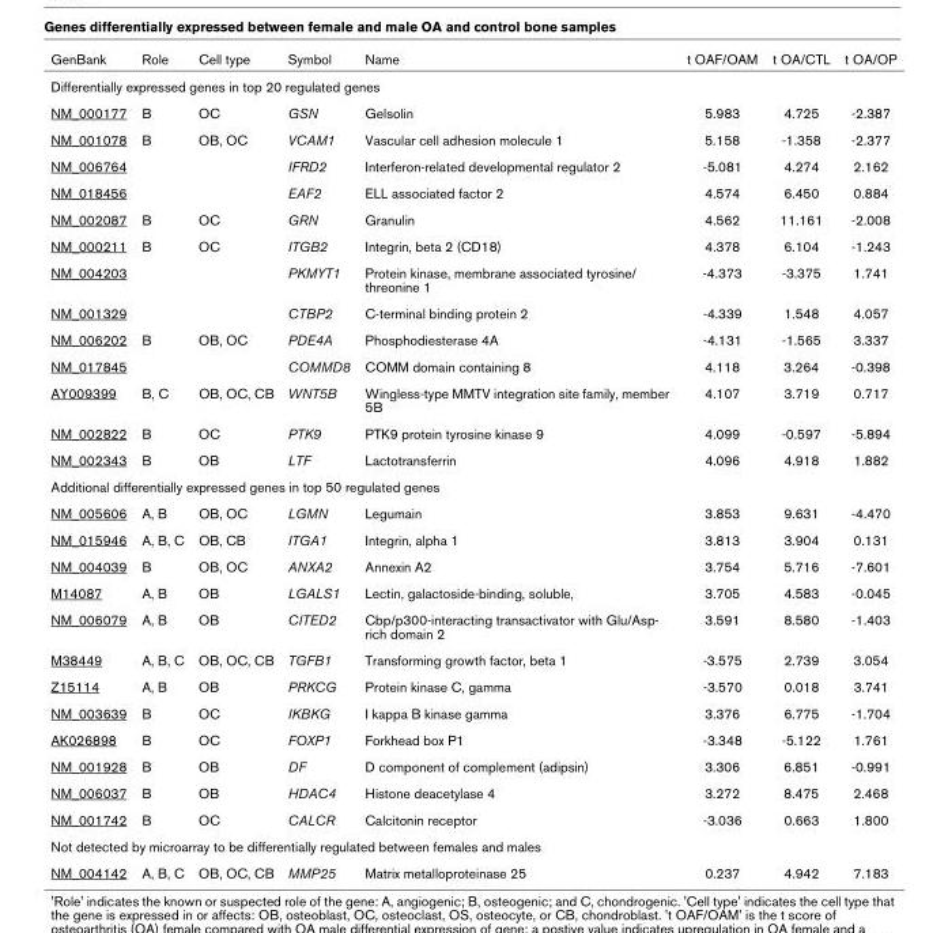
<table><thead><tr><td>GenBank</td><td>Role</td><td>Cell type</td><td>Symbol</td><td>Name</td><td>t OAF/OAM</td><td>t OA/CTL</td><td>t OA/OP</td></tr></thead><tbody><tr><td colspan="8">Differentially expressed genes in top 20 regulated genes</td></tr><tr><td>NM_000177</td><td>B</td><td>OC</td><td>GSN</td><td>Gelsolin</td><td>5.983</td><td>4.725</td><td>-2.387</td></tr><tr><td>NM_001078</td><td>B</td><td>OB, OC</td><td>VCAM1</td><td>Vascular cell adhesion molecule 1</td><td>5.158</td><td>-1.358</td><td>-2.377</td></tr><tr><td>NM_006764</td><td></td><td></td><td>IFRD2</td><td>Interferon-related developmental regulator 2</td><td>-5.081</td><td>4.274</td><td>2.162</td></tr><tr><td>NM_018456</td><td></td><td></td><td>EAF2</td><td>ELL associated factor 2</td><td>4.574</td><td>6.450</td><td>0.884</td></tr><tr><td>NM_002087</td><td>B</td><td>OC</td><td>GRN</td><td>Granulin</td><td>4.562</td><td>11.161</td><td>-2.008</td></tr><tr><td>NM_000211</td><td>B</td><td>OC</td><td>ITGB2</td><td>Integrin, beta 2 (CD18)</td><td>4.378</td><td>6.104</td><td>-1.243</td></tr><tr><td>NM_004203</td><td></td><td></td><td>PKMYT1</td><td>Protein kinase, membrane associated tyrosine/ threonine 1</td><td>-4.373</td><td>-3.375</td><td>1.741</td></tr><tr><td>NM_001329</td><td></td><td></td><td>CTBP2</td><td>C-terminal binding protein 2</td><td>-4.339</td><td>1.548</td><td>4.057</td></tr><tr><td>NM_006202</td><td>B</td><td>OB, OC</td><td>PDE4A</td><td>Phosphodiesterase 4A</td><td>-4.131</td><td>-1.565</td><td>3.337</td></tr><tr><td>NM_017845</td><td></td><td></td><td>COMMD8</td><td>COMM domain containing 8</td><td>4.118</td><td>3.264</td><td>-0.398</td></tr><tr><td>AY009399</td><td>B, C</td><td>OB, OC, CB</td><td>WNT5B</td><td>Wingless-type MMTV integration site family, member 5B</td><td>4.107</td><td>3.719</td><td>0.717</td></tr><tr><td>NM_002822</td><td>B</td><td>OC</td><td>PTK9</td><td>PTK9 protein tyrosine kinase 9</td><td>4.099</td><td>-0.597</td><td>-5.894</td></tr><tr><td>NM_002343</td><td>B</td><td>OB</td><td>LTF</td><td>Lactotransferrin</td><td>4.096</td><td>4.918</td><td>1.882</td></tr><tr><td colspan="8">Additional differentially expressed genes in top 50 regulated genes</td></tr><tr><td>NM_005606</td><td>A, B</td><td>OB, OC</td><td>LGMN</td><td>Legumain</td><td>3.853</td><td>9.631</td><td>-4.470</td></tr><tr><td>NM_015946</td><td>A, B, C</td><td>OB, CB</td><td>ITGA1</td><td>Integrin, alpha 1</td><td>3.813</td><td>3.904</td><td>0.131</td></tr><tr><td>NM_004039</td><td>B</td><td>OB, OC</td><td>ANXA2</td><td>Annexin A2</td><td>3.754</td><td>5.716</td><td>-7.601</td></tr><tr><td>M14087</td><td>A, B</td><td>OB</td><td>LGALS1</td><td>Lectin, galactoside-binding, soluble,</td><td>3.705</td><td>4.583</td><td>-0.045</td></tr><tr><td>NM_006079</td><td>A, B</td><td>OB</td><td>CITED2</td><td>Cbp/p300-interacting transactivator with Glu/Asp- rich domain 2</td><td>3.591</td><td>8.580</td><td>-1.403</td></tr><tr><td>M38449</td><td>A, B, C</td><td>OB, OC, CB</td><td>TGFB1</td><td>Transforming growth factor, beta 1</td><td>-3.575</td><td>2.739</td><td>3.054</td></tr><tr><td>Z15114</td><td>A, B</td><td>OB</td><td>PRKCG</td><td>Protein kinase C, gamma</td><td>-3.570</td><td>0.018</td><td>3.741</td></tr><tr><td>NM_003639</td><td>B</td><td>OC</td><td>IKBKG</td><td>I kappa B kinase gamma</td><td>3.376</td><td>6.775</td><td>-1.704</td></tr><tr><td>AK026898</td><td>B</td><td>OC</td><td>FOXP1</td><td>Forkhead box P1</td><td>-3.348</td><td>-5.122</td><td>1.761</td></tr><tr><td>NM_001928</td><td>B</td><td>OB</td><td>DF</td><td>D component of complement (adipsin)</td><td>3.306</td><td>6.851</td><td>-0.991</td></tr><tr><td>NM_006037</td><td>B</td><td>OB</td><td>HDAC4</td><td>Histone deacetylase 4</td><td>3.272</td><td>8.475</td><td>2.468</td></tr><tr><td>NM_001742</td><td>B</td><td>OC</td><td>CALCR</td><td>Calcitonin receptor</td><td>-3.036</td><td>0.663</td><td>1.800</td></tr><tr><td colspan="8">Not detected by microarray to be differentially regulated between females and males</td></tr><tr><td>NM_004142</td><td>A, B, C</td><td>OB, OC, CB</td><td>MMP25</td><td>Matrix metalloproteinase 25</td><td>0.237</td><td>4.942</td><td>7.183</td></tr></tbody></table>